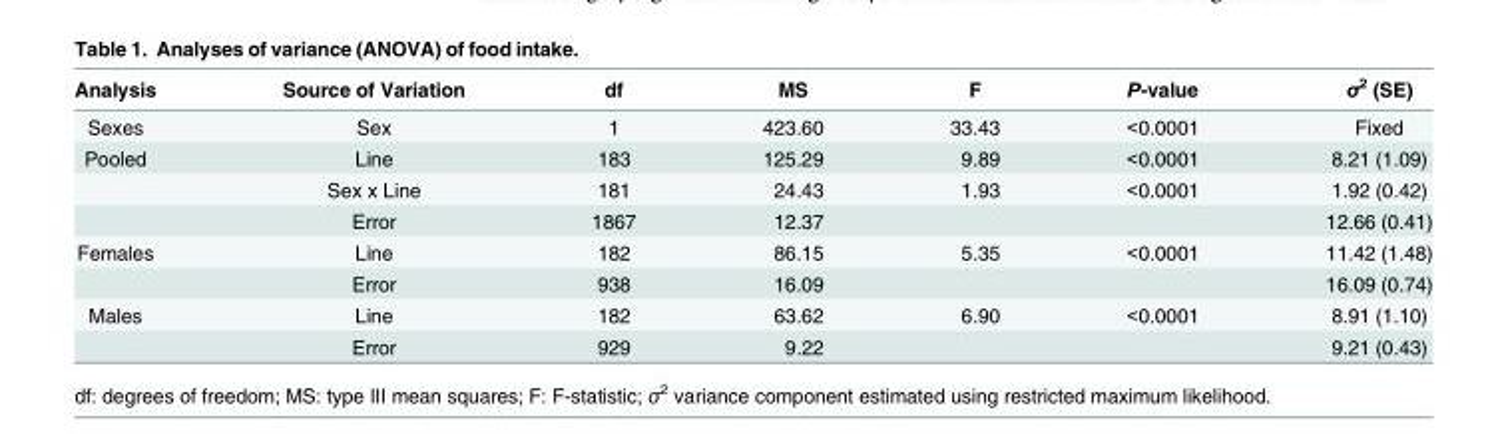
<table><thead><tr><td>Analysis</td><td>Source of Variation</td><td>df</td><td>MS</td><td>F</td><td>P-value</td><td>σ<sup>2</sup> (SE)</td></tr></thead><tbody><tr><td>Sexes</td><td>Sex</td><td>1</td><td>423.60</td><td>33.43</td><td>&lt;0.0001</td><td>Fixed</td></tr><tr><td rowspan="3">Pooled</td><td>Line</td><td>183</td><td>125.29</td><td>9.89</td><td>&lt;0.0001</td><td>8.21 (1.09)</td></tr><tr><td>Sex x Line</td><td>181</td><td>24.43</td><td>1.93</td><td>&lt;0.0001</td><td>1.92 (0.42)</td></tr><tr><td>Error</td><td>1867</td><td>12.37</td><td></td><td></td><td>12.66 (0.41)</td></tr><tr><td rowspan="2">Females</td><td>Line</td><td>182</td><td>86.15</td><td>5.35</td><td>&lt;0.0001</td><td>11.42 (1.48)</td></tr><tr><td>Error</td><td>938</td><td>16.09</td><td></td><td></td><td>16.09 (0.74)</td></tr><tr><td rowspan="2">Males</td><td>Line</td><td>182</td><td>63.62</td><td>6.90</td><td>&lt;0.0001</td><td>8.91 (1.10)</td></tr><tr><td>Error</td><td>929</td><td>9.22</td><td></td><td></td><td>9.21 (0.43)</td></tr></tbody></table>